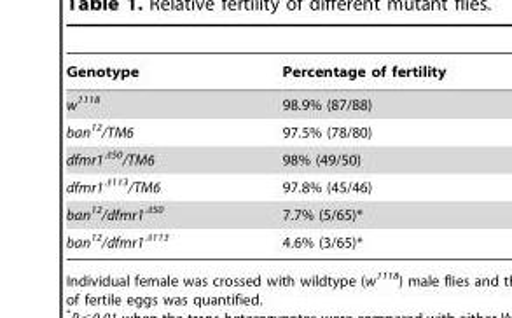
<table><thead><tr><td>Genotype</td><td>Percentage of fertility</td></tr></thead><tbody><tr><td>w<sup>1118</sup></td><td>98.9% (87/88)</td></tr><tr><td>ban<sup>12</sup>/TM6</td><td>97.5% (78/80)</td></tr><tr><td>dfmr1<sup>Δ50</sup>/TM6</td><td>98% (49/50)</td></tr><tr><td>dfmr1<sup>Δ113</sup>/TM6</td><td>97.8% (45/46)</td></tr><tr><td>ban<sup>12</sup>/dfmr1<sup>Δ50</sup></td><td>7.7% (5/65)*</td></tr><tr><td>ban<sup>12</sup>/dfmr1<sup>Δ113</sup></td><td>4.6% (3/65)*</td></tr></tbody></table>